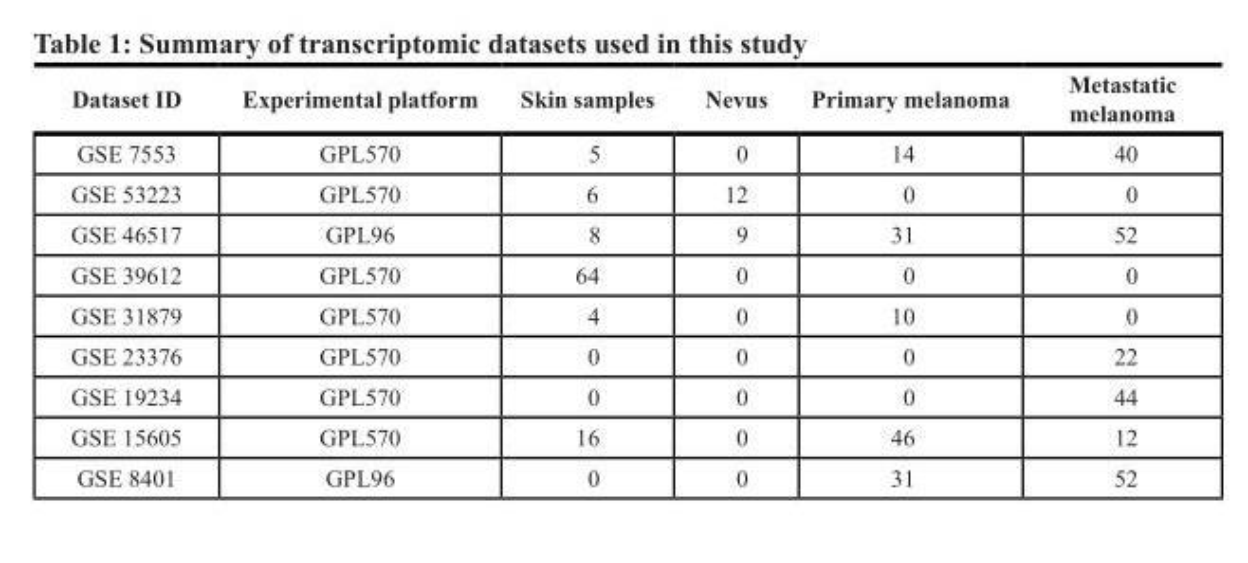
<table><thead><tr><td>Dataset ID</td><td>Experimental platform</td><td>Skin samples</td><td>Nevus</td><td>Primary melanoma</td><td>Metastatic melanoma</td></tr></thead><tbody><tr><td>GSE 7553</td><td>GPL570</td><td>5</td><td>0</td><td>14</td><td>40</td></tr><tr><td>GSE 53223</td><td>GPL570</td><td>6</td><td>12</td><td>0</td><td>0</td></tr><tr><td>GSE 46517</td><td>GPL96</td><td>8</td><td>9</td><td>31</td><td>52</td></tr><tr><td>GSE 39612</td><td>GPL570</td><td>64</td><td>0</td><td>0</td><td>0</td></tr><tr><td>GSE 31879</td><td>GPL570</td><td>4</td><td>0</td><td>10</td><td>0</td></tr><tr><td>GSE 23376</td><td>GPL570</td><td>0</td><td>0</td><td>0</td><td>22</td></tr><tr><td>GSE 19234</td><td>GPL570</td><td>0</td><td>0</td><td>0</td><td>44</td></tr><tr><td>GSE 15605</td><td>GPL570</td><td>16</td><td>0</td><td>46</td><td>12</td></tr><tr><td>GSE 8401</td><td>GPL96</td><td>0</td><td>0</td><td>31</td><td>52</td></tr></tbody></table>